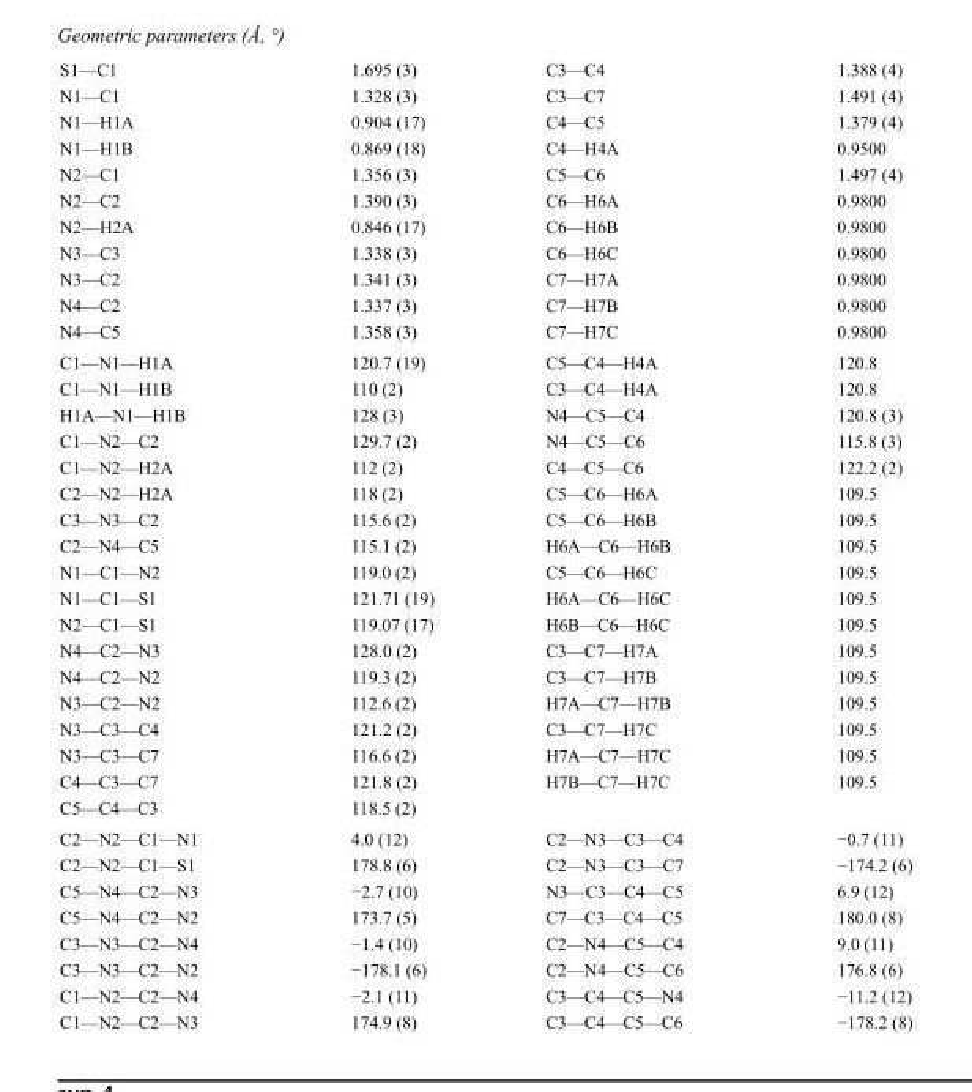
<table><tbody><tr><td>S1—C1</td><td>1.695 (3)</td><td>C3—C4</td><td>1.388 (4)</td></tr><tr><td>N1—C1</td><td>1.328 (3)</td><td>C3—C7</td><td>1.491 (4)</td></tr><tr><td>N1—H1A</td><td>0.904 (17)</td><td>C4—C5</td><td>1.379 (4)</td></tr><tr><td>N1—H1B</td><td>0.869 (18)</td><td>C4—H4A</td><td>0.9500</td></tr><tr><td>N2—C1</td><td>1.356 (3)</td><td>C5—C6</td><td>1.497 (4)</td></tr><tr><td>N2—C2</td><td>1.390 (3)</td><td>C6—H6A</td><td>0.9800</td></tr><tr><td>N2—H2A</td><td>0.846 (17)</td><td>C6—H6B</td><td>0.9800</td></tr><tr><td>N3—C3</td><td>1.338 (3)</td><td>C6—H6C</td><td>0.9800</td></tr><tr><td>N3—C2</td><td>1.341 (3)</td><td>C7—H7A</td><td>0.9800</td></tr><tr><td>N4—C2</td><td>1.337 (3)</td><td>C7—H7B</td><td>0.9800</td></tr><tr><td>N4—C5</td><td>1.358 (3)</td><td>C7—H7C</td><td>0.9800</td></tr><tr><td>C1—N1—H1A</td><td>120.7 (19)</td><td>C5—C4—H4A</td><td>120.8</td></tr><tr><td>C1—N1—H1B</td><td>110 (2)</td><td>C3—C4—H4A</td><td>120.8</td></tr><tr><td>H1A—N1—H1B</td><td>128 (3)</td><td>N4—C5—C4</td><td>120.8 (3)</td></tr><tr><td>C1—N2—C2</td><td>129.7 (2)</td><td>N4—C5—C6</td><td>115.8 (3)</td></tr><tr><td>C1—N2—H2A</td><td>112 (2)</td><td>C4—C5—C6</td><td>122.2 (2)</td></tr><tr><td>C2—N2—H2A</td><td>118 (2)</td><td>C5—C6—H6A</td><td>109.5</td></tr><tr><td>C3—N3—C2</td><td>115.6 (2)</td><td>C5—C6—H6B</td><td>109.5</td></tr><tr><td>C2—N4—C5</td><td>115.1 (2)</td><td>H6A—C6—H6B</td><td>109.5</td></tr><tr><td>N1—C1—N2</td><td>119.0 (2)</td><td>C5—C6—H6C</td><td>109.5</td></tr><tr><td>N1—C1—S1</td><td>121.71 (19)</td><td>H6A—C6—H6C</td><td>109.5</td></tr><tr><td>N2—C1—S1</td><td>119.07 (17)</td><td>H6B—C6—H6C</td><td>109.5</td></tr><tr><td>N4—C2—N3</td><td>128.0 (2)</td><td>C3—C7—H7A</td><td>109.5</td></tr><tr><td>N4—C2—N2</td><td>119.3 (2)</td><td>C3—C7—H7B</td><td>109.5</td></tr><tr><td>N3—C2—N2</td><td>112.6 (2)</td><td>H7A—C7—H7B</td><td>109.5</td></tr><tr><td>N3—C3—C4</td><td>121.2 (2)</td><td>C3—C7—H7C</td><td>109.5</td></tr><tr><td>N3—C3—C7</td><td>116.6 (2)</td><td>H7A—C7—H7C</td><td>109.5</td></tr><tr><td>C4—C3—C7</td><td>121.8 (2)</td><td>H7B—C7—H7C</td><td>109.5</td></tr><tr><td>C5—C4—C3</td><td>118.5 (2)</td><td></td><td></td></tr><tr><td>C2—N2—C1—N1</td><td>4.0 (12)</td><td>C2—N3—C3—C4</td><td>−0.7 (11)</td></tr><tr><td>C2—N2—C1—S1</td><td>178.8 (6)</td><td>C2—N3—C3—C7</td><td>−174.2 (6)</td></tr><tr><td>C5—N4—C2—N3</td><td>−2.7 (10)</td><td>N3—C3—C4—C5</td><td>6.9 (12)</td></tr><tr><td>C5—N4—C2—N2</td><td>173.7 (5)</td><td>C7—C3—C4—C5</td><td>180.0 (8)</td></tr><tr><td>C3—N3—C2—N4</td><td>−1.4 (10)</td><td>C2—N4—C5—C4</td><td>9.0 (11)</td></tr><tr><td>C3—N3—C2—N2</td><td>−178.1 (6)</td><td>C2—N4—C5—C6</td><td>176.8 (6)</td></tr><tr><td>C1—N2—C2—N4</td><td>−2.1 (11)</td><td>C3—C4—C5—N4</td><td>−11.2 (12)</td></tr><tr><td>C1—N2—C2—N3</td><td>174.9 (8)</td><td>C3—C4—C5—C6</td><td>−178.2 (8)</td></tr></tbody></table>